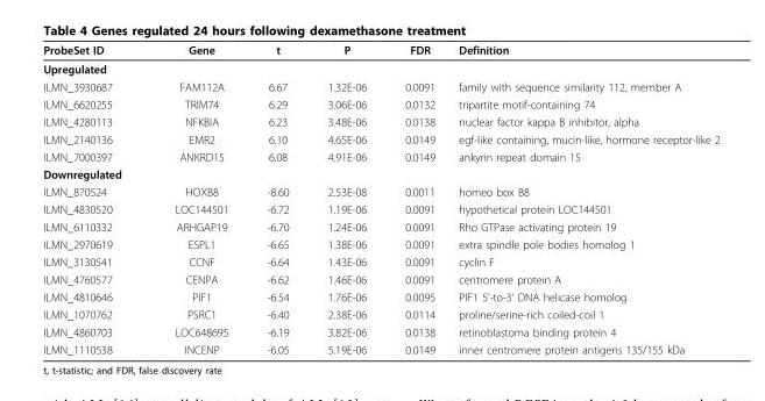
<table><thead><tr><td>ProbeSet ID</td><td>Gene</td><td>t</td><td>P</td><td>FDR</td><td>Definition</td></tr></thead><tbody><tr><td colspan="6">Upregulated</td></tr><tr><td>ILMN_3930687</td><td>FAM112A</td><td>6.67</td><td>1.32E-06</td><td>0.0091</td><td>family with sequence similarity 112, member A</td></tr><tr><td>ILMN_6620255</td><td>TRIM74</td><td>6.29</td><td>3.06E-06</td><td>0.0132</td><td>tripartite motif-containing 74</td></tr><tr><td>ILMN_4280113</td><td>NFKBIA</td><td>6.23</td><td>3.48E-06</td><td>0.0138</td><td>nuclear factor kappa B inhibitor, alpha</td></tr><tr><td>ILMN_2140136</td><td>EMR2</td><td>6.10</td><td>4.65E-06</td><td>0.0149</td><td>egf-like containing, mucin-like, hormone receptor-like 2</td></tr><tr><td>ILMN_7000397</td><td>ANKRD15</td><td>6.08</td><td>4.91E-06</td><td>0.0149</td><td>ankyrin repeat domain 15</td></tr><tr><td colspan="6">Downregulated</td></tr><tr><td>ILMN_870524</td><td>HOXB8</td><td>-8.60</td><td>2.53E-08</td><td>0.0011</td><td>homeo box B8</td></tr><tr><td>ILMN_4830520</td><td>LOC144501</td><td>-6.72</td><td>1.19E-06</td><td>0.0091</td><td>hypothetical protein LOC144501</td></tr><tr><td>ILMN_6110332</td><td>ARHGAP19</td><td>-6.70</td><td>1.24E-06</td><td>0.0091</td><td>Rho GTPase activating protein 19</td></tr><tr><td>ILMN_2970619</td><td>ESPL1</td><td>-6.65</td><td>1.38E-06</td><td>0.0091</td><td>extra spindle pole bodies homolog 1</td></tr><tr><td>ILMN_3130541</td><td>CCNF</td><td>-6.64</td><td>1.43E-06</td><td>0.0091</td><td>cyclin F</td></tr><tr><td>ILMN_4760577</td><td>CENPA</td><td>-6.62</td><td>1.46E-06</td><td>0.0091</td><td>centromere protein A</td></tr><tr><td>ILMN_4810646</td><td>PIF1</td><td>-6.54</td><td>1.76E-06</td><td>0.0095</td><td>PIF1 5’-to-3’ DNA helicase homolog</td></tr><tr><td>ILMN_1070762</td><td>PSRC1</td><td>-6.40</td><td>2.38E-06</td><td>0.0114</td><td>proline/serine-rich coiled-coil 1</td></tr><tr><td>ILMN_4860703</td><td>LOC648695</td><td>-6.19</td><td>3.82E-06</td><td>0.0138</td><td>retinoblastoma binding protein 4</td></tr><tr><td>ILMN_1110538</td><td>INCENP</td><td>-6.05</td><td>5.19E-06</td><td>0.0149</td><td>inner centromere protein antigens 135/155 kDa</td></tr></tbody></table>